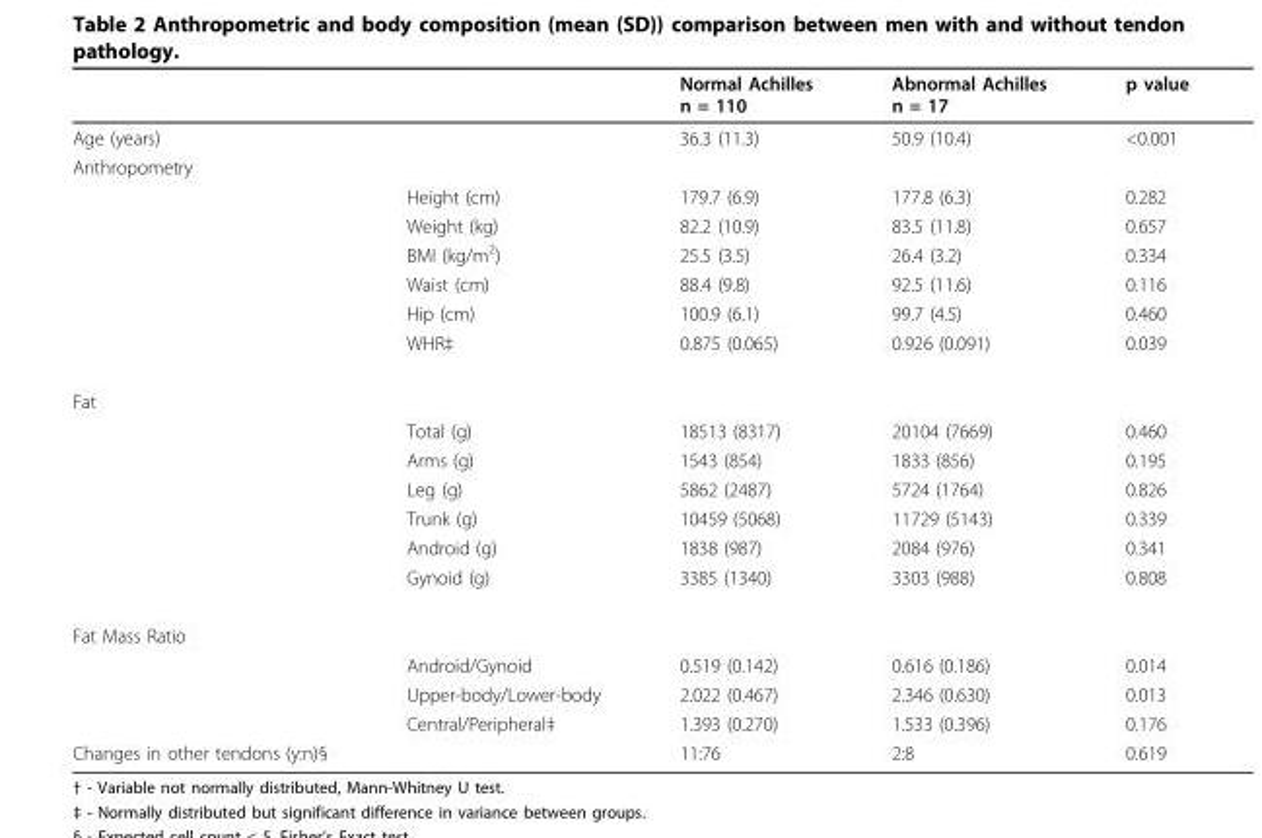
<table><thead><tr><td></td><td></td><td>Normal Achilles n = 110</td><td>Abnormal Achilles n = 17</td><td>p value</td></tr></thead><tbody><tr><td>Age (years)</td><td></td><td>36.3 (11.3)</td><td>50.9 (10.4)</td><td>&lt;0.001</td></tr><tr><td colspan="5">Anthropometry</td></tr><tr><td></td><td>Height (cm)</td><td>179.7 (6.9)</td><td>177.8 (6.3)</td><td>0.282</td></tr><tr><td></td><td>Weight (kg)</td><td>82.2 (10.9)</td><td>83.5 (11.8)</td><td>0.657</td></tr><tr><td></td><td>BMI (kg/m<sup>2</sup>)</td><td>25.5 (3.5)</td><td>26.4 (3.2)</td><td>0.334</td></tr><tr><td></td><td>Waist (cm)</td><td>88.4 (9.8)</td><td>92.5 (11.6)</td><td>0.116</td></tr><tr><td></td><td>Hip (cm)</td><td>100.9 (6.1)</td><td>99.7 (4.5)</td><td>0.460</td></tr><tr><td></td><td>WHR‡</td><td>0.875 (0.065)</td><td>0.926 (0.091)</td><td>0.039</td></tr><tr><td colspan="5">Fat</td></tr><tr><td></td><td>Total (g)</td><td>18513 (8317)</td><td>20104 (7669)</td><td>0.460</td></tr><tr><td></td><td>Arms (g)</td><td>1543 (854)</td><td>1833 (856)</td><td>0.195</td></tr><tr><td></td><td>Leg (g)</td><td>5862 (2487)</td><td>5724 (1764)</td><td>0.826</td></tr><tr><td></td><td>Trunk (g)</td><td>10459 (5068)</td><td>11729 (5143)</td><td>0.339</td></tr><tr><td></td><td>Android (g)</td><td>1838 (987)</td><td>2084 (976)</td><td>0.341</td></tr><tr><td></td><td>Gynoid (g)</td><td>3385 (1340)</td><td>3303 (988)</td><td>0.808</td></tr><tr><td colspan="5">Fat Mass Ratio</td></tr><tr><td></td><td>Android/Gynoid</td><td>0.519 (0.142)</td><td>0.616 (0.186)</td><td>0.014</td></tr><tr><td></td><td>Upper-body/Lower-body</td><td>2.022 (0.467)</td><td>2.346 (0.630)</td><td>0.013</td></tr><tr><td></td><td>Central/Peripheral‡</td><td>1.393 (0.270)</td><td>1.533 (0.396)</td><td>0.176</td></tr><tr><td>Changes in other tendons (y:n)§</td><td></td><td>11:76</td><td>2:8</td><td>0.619</td></tr></tbody></table>